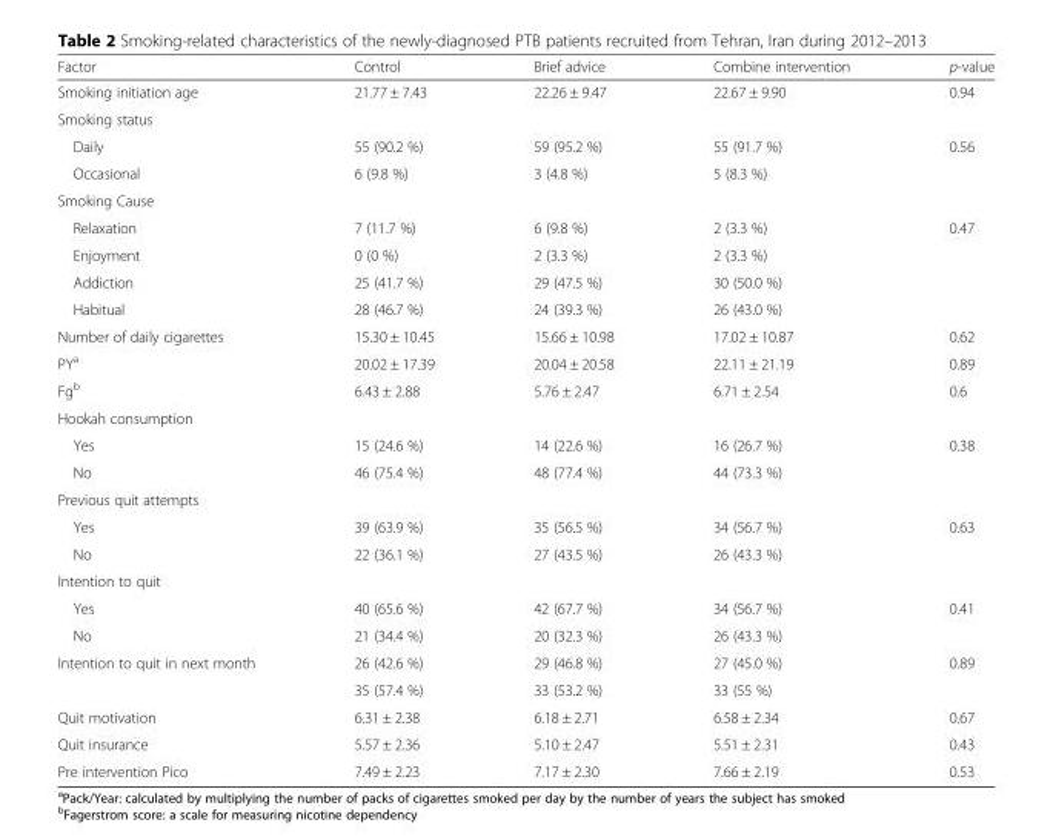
<table><thead><tr><td>Factor</td><td>Control</td><td>Brief advice</td><td>Combine intervention</td><td>p-value</td></tr></thead><tbody><tr><td>Smoking initiation age</td><td>21.77 ± 7.43</td><td>22.26 ± 9.47</td><td>22.67 ± 9.90</td><td>0.94</td></tr><tr><td colspan="5">Smoking status</td></tr><tr><td>Daily</td><td>55 (90.2 %)</td><td>59 (95.2 %)</td><td>55 (91.7 %)</td><td rowspan="2">0.56</td></tr><tr><td>Occasional</td><td>6 (9.8 %)</td><td>3 (4.8 %)</td><td>5 (8.3 %)</td></tr><tr><td colspan="5">Smoking Cause</td></tr><tr><td>Relaxation</td><td>7 (11.7 %)</td><td>6 (9.8 %)</td><td>2 (3.3 %)</td><td rowspan="4">0.47</td></tr><tr><td>Enjoyment</td><td>0 (0 %)</td><td>2 (3.3 %)</td><td>2 (3.3 %)</td></tr><tr><td>Addiction</td><td>25 (41.7 %)</td><td>29 (47.5 %)</td><td>30 (50.0 %)</td></tr><tr><td>Habitual</td><td>28 (46.7 %)</td><td>24 (39.3 %)</td><td>26 (43.0 %)</td></tr><tr><td>Number of daily cigarettes</td><td>15.30 ± 10.45</td><td>15.66 ± 10.98</td><td>17.02 ± 10.87</td><td>0.62</td></tr><tr><td>PY<sup>a</sup></td><td>20.02 ± 17.39</td><td>20.04 ± 20.58</td><td>22.11 ± 21.19</td><td>0.89</td></tr><tr><td>Fg<sup>b</sup></td><td>6.43 ± 2.88</td><td>5.76 ± 2.47</td><td>6.71 ± 2.54</td><td>0.6</td></tr><tr><td colspan="5">Hookah consumption</td></tr><tr><td>Yes</td><td>15 (24.6 %)</td><td>14 (22.6 %)</td><td>16 (26.7 %)</td><td rowspan="2">0.38</td></tr><tr><td>No</td><td>46 (75.4 %)</td><td>48 (77.4 %)</td><td>44 (73.3 %)</td></tr><tr><td colspan="5">Previous quit attempts</td></tr><tr><td>Yes</td><td>39 (63.9 %)</td><td>35 (56.5 %)</td><td>34 (56.7 %)</td><td rowspan="2">0.63</td></tr><tr><td>No</td><td>22 (36.1 %)</td><td>27 (43.5 %)</td><td>26 (43.3 %)</td></tr><tr><td colspan="5">Intention to quit</td></tr><tr><td>Yes</td><td>40 (65.6 %)</td><td>42 (67.7 %)</td><td>34 (56.7 %)</td><td rowspan="2">0.41</td></tr><tr><td>No</td><td>21 (34.4 %)</td><td>20 (32.3 %)</td><td>26 (43.3 %)</td></tr><tr><td rowspan="2">Intention to quit in next month</td><td>26 (42.6 %)</td><td>29 (46.8 %)</td><td>27 (45.0 %)</td><td rowspan="2">0.89</td></tr><tr><td>35 (57.4 %)</td><td>33 (53.2 %)</td><td>33 (55 %)</td></tr><tr><td>Quit motivation</td><td>6.31 ± 2.38</td><td>6.18 ± 2.71</td><td>6.58 ± 2.34</td><td>0.67</td></tr><tr><td>Quit insurance</td><td>5.57 ± 2.36</td><td>5.10 ± 2.47</td><td>5.51 ± 2.31</td><td>0.43</td></tr><tr><td>Pre intervention Pico</td><td>7.49 ± 2.23</td><td>7.17 ± 2.30</td><td>7.66 ± 2.19</td><td>0.53</td></tr></tbody></table>